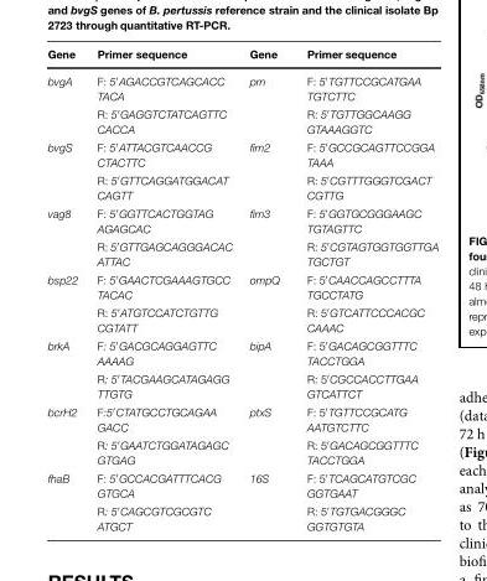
<table><thead><tr><td>Gene</td><td>Primer sequence</td><td>Gene</td><td>Primer sequence</td></tr></thead><tbody><tr><td rowspan="2">bvgA</td><td>F: 5′AGACCGTCAGCACC TACA</td><td>prn</td><td>F: 5′TGTTCCGCATGAA TGTCTTC</td></tr><tr><td>R: 5′GAGGTCTATCAGTTC CACCA</td><td></td><td>R: 5′TGTTGGCAAGG GTAAAGGTC</td></tr><tr><td rowspan="2">bvgS</td><td>F: 5′ATTACGTCAACCG CTACTTC</td><td>fim2</td><td>F: 5′GCCGCAGTTCCGGA TAAA</td></tr><tr><td>R: 5′GTTCAGGATGGACAT CAGTT</td><td></td><td>R: 5′CGTTTGGGTCGACT CGTTG</td></tr><tr><td rowspan="2">vag8</td><td>F: 5′GGTTCACTGGTAG AGAGCAC</td><td>fim3</td><td>F: 5′GGTGCGGGAAGC TGTAGTTC</td></tr><tr><td>R: 5′GTTGAGCAGGGACAC ATTAC</td><td></td><td>R: 5′CGTAGTGGTGGTTGA TGCTGT</td></tr><tr><td rowspan="2">bsp22</td><td>F: 5′GAACTCGAAAGTGCC TACAC</td><td>ompQ</td><td>F: 5′CAACCAGCCTTTA TGCCTATG</td></tr><tr><td>R: 5′ATGTCCATCTGTTG CGTATT</td><td></td><td>R: 5′GTCATTCCCACGC CAAAC</td></tr><tr><td rowspan="2">brkA</td><td>F: 5′GACGCAGGAGTTC AAAAG</td><td>bipA</td><td>F: 5′GACAGCGGTTTC TACCTGGA</td></tr><tr><td>R: 5′TACGAAGCATAGAGG TTGTG</td><td></td><td>R: 5′CGCCACCTTGAA GTCATTCT</td></tr><tr><td rowspan="2">bcrH2</td><td>F:5′CTATGCCTGCAGAA GACC</td><td>ptxS</td><td>F: 5′TGTTCCGCATG AATGTCTTC</td></tr><tr><td>R: 5′GAATCTGGATAGAGC GTGAG</td><td></td><td>R: 5′GACAGCGGTTTC TACCTGGA</td></tr><tr><td rowspan="2">fhaB</td><td>F: 5′GCCACGATTTCACG GTGCA</td><td>16S</td><td>F: 5′TCAGCATGTCGC GGTGAAT</td></tr><tr><td>R: 5′CAGCGTCGCGTC ATGCT</td><td></td><td>R: 5′TGTGACGGGC GGTGTGTA</td></tr></tbody></table>